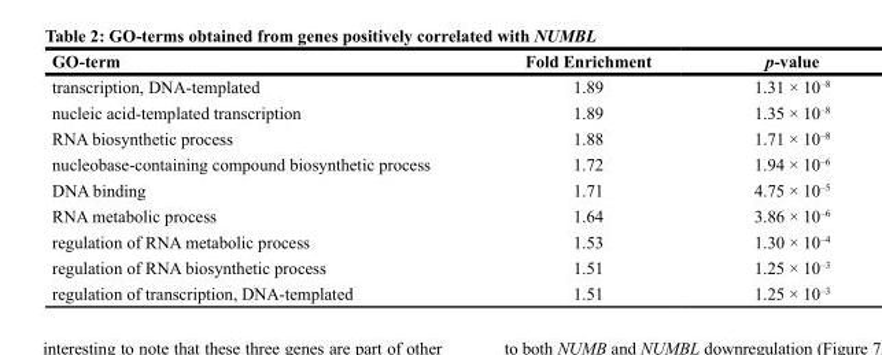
<table><thead><tr><td>GO-term</td><td>Fold Enrichment</td><td>p-value</td></tr></thead><tbody><tr><td>transcription, DNA-templated</td><td>1.89</td><td>1.31 × 10<sup>–8</sup></td></tr><tr><td>nucleic acid-templated transcription</td><td>1.89</td><td>1.35 × 10<sup>–8</sup></td></tr><tr><td>RNA biosynthetic process</td><td>1.88</td><td>1.71 × 10<sup>–8</sup></td></tr><tr><td>nucleobase-containing compound biosynthetic process</td><td>1.72</td><td>1.94 × 10<sup>–6</sup></td></tr><tr><td>DNA binding</td><td>1.71</td><td>4.75 × 10<sup>–5</sup></td></tr><tr><td>RNA metabolic process</td><td>1.64</td><td>3.86 × 10<sup>–6</sup></td></tr><tr><td>regulation of RNA metabolic process</td><td>1.53</td><td>1.30 × 10<sup>–4</sup></td></tr><tr><td>regulation of RNA biosynthetic process</td><td>1.51</td><td>1.25 × 10<sup>–3</sup></td></tr><tr><td>regulation of transcription, DNA-templated</td><td>1.51</td><td>1.25 × 10<sup>–3</sup></td></tr></tbody></table>